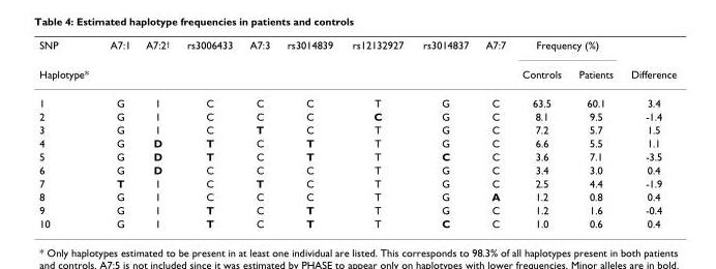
<table><thead><tr><td rowspan="2">SNP Haplotype*</td><td rowspan="2">A7:1</td><td rowspan="2">A7:2<sup>†</sup></td><td rowspan="2">rs3006433</td><td rowspan="2">A7:3</td><td rowspan="2">rs3014839</td><td rowspan="2">rs12132927</td><td rowspan="2">rs3014837</td><td rowspan="2">A7:7</td><td colspan="2">Frequency (%)</td><td rowspan="2">Difference</td></tr><tr><td>Controls</td><td>Patients</td></tr></thead><tbody><tr><td>1</td><td>G</td><td>I</td><td>C</td><td>C</td><td>C</td><td>T</td><td>G</td><td>C</td><td>63.5</td><td>60.1</td><td>3.4</td></tr><tr><td>2</td><td>G</td><td>I</td><td>C</td><td>C</td><td>C</td><td>C</td><td>G</td><td>C</td><td>8.1</td><td>9.5</td><td>-1.4</td></tr><tr><td>3</td><td>G</td><td>I</td><td>C</td><td>T</td><td>C</td><td>T</td><td>G</td><td>C</td><td>7.2</td><td>5.7</td><td>1.5</td></tr><tr><td>4</td><td>G</td><td>D</td><td>T</td><td>C</td><td>T</td><td>T</td><td>G</td><td>C</td><td>6.6</td><td>5.5</td><td>1.1</td></tr><tr><td>5</td><td>G</td><td>D</td><td>T</td><td>C</td><td>T</td><td>T</td><td>C</td><td>C</td><td>3.6</td><td>7.1</td><td>-3.5</td></tr><tr><td>6</td><td>G</td><td>D</td><td>C</td><td>C</td><td>C</td><td>T</td><td>G</td><td>C</td><td>3.4</td><td>3.0</td><td>0.4</td></tr><tr><td>7</td><td>T</td><td>I</td><td>C</td><td>T</td><td>C</td><td>T</td><td>G</td><td>C</td><td>2.5</td><td>4.4</td><td>-1.9</td></tr><tr><td>8</td><td>G</td><td>I</td><td>C</td><td>C</td><td>C</td><td>T</td><td>G</td><td>A</td><td>1.2</td><td>0.8</td><td>0.4</td></tr><tr><td>9</td><td>G</td><td>I</td><td>T</td><td>C</td><td>T</td><td>T</td><td>G</td><td>C</td><td>1.2</td><td>1.6</td><td>-0.4</td></tr><tr><td>10</td><td>G</td><td>I</td><td>T</td><td>C</td><td>T</td><td>T</td><td>C</td><td>C</td><td>1.0</td><td>0.6</td><td>0.4</td></tr></tbody></table>